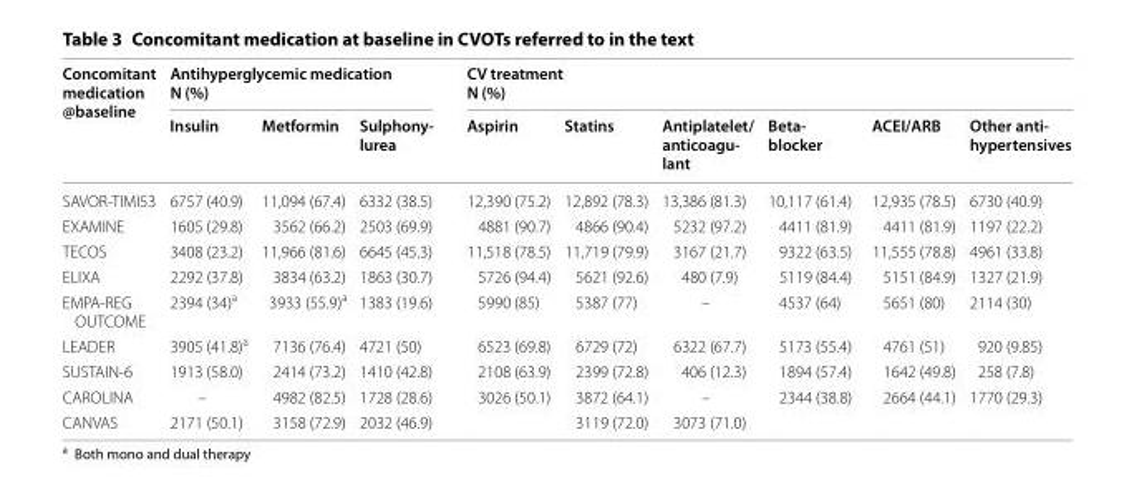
<table><thead><tr><td rowspan="2">Concomitant medication @baseline</td><td colspan="3">Antihyperglycemic medication N (%)</td><td colspan="6">CV treatment N (%)</td></tr><tr><td>Insulin</td><td>Metformin</td><td>Sulphony- lurea</td><td>Aspirin</td><td>Statins</td><td>Antiplatelet/ anticoagu- lant</td><td>Beta- blocker</td><td>ACEI/ARB</td><td>Other anti- hypertensives</td></tr></thead><tbody><tr><td>SAVOR-TIMI53</td><td>6757 (40.9)</td><td>11,094 (67.4)</td><td>6332 (38.5)</td><td>12,390 (75.2)</td><td>12,892 (78.3)</td><td>13,386 (81.3)</td><td>10,117 (61.4)</td><td>12,935 (78.5)</td><td>6730 (40.9)</td></tr><tr><td>EXAMINE</td><td>1605 (29.8)</td><td>3562 (66.2)</td><td>2503 (69.9)</td><td>4881 (90.7)</td><td>4866 (90.4)</td><td>5232 (97.2)</td><td>4411 (81.9)</td><td>4411 (81.9)</td><td>1197 (22.2)</td></tr><tr><td>TECOS</td><td>3408 (23.2)</td><td>11,966 (81.6)</td><td>6645 (45.3)</td><td>11,518 (78.5)</td><td>11,719 (79.9)</td><td>3167 (21.7)</td><td>9322 (63.5)</td><td>11,555 (78.8)</td><td>4961 (33.8)</td></tr><tr><td>ELIXA</td><td>2292 (37.8)</td><td>3834 (63.2)</td><td>1863 (30.7)</td><td>5726 (94.4)</td><td>5621 (92.6)</td><td>480 (7.9)</td><td>5119 (84.4)</td><td>5151 (84.9)</td><td>1327 (21.9)</td></tr><tr><td>EMPA-REG OUTCOME</td><td>2394 (34)<sup>a</sup></td><td>3933 (55.9)<sup>a</sup></td><td>1383 (19.6)</td><td>5990 (85)</td><td>5387 (77)</td><td>–</td><td>4537 (64)</td><td>5651 (80)</td><td>2114 (30)</td></tr><tr><td>LEADER</td><td>3905 (41.8)<sup>a</sup></td><td>7136 (76.4)</td><td>4721 (50)</td><td>6523 (69.8)</td><td>6729 (72)</td><td>6322 (67.7)</td><td>5173 (55.4)</td><td>4761 (51)</td><td>920 (9.85)</td></tr><tr><td>SUSTAIN-6</td><td>1913 (58.0)</td><td>2414 (73.2)</td><td>1410 (42.8)</td><td>2108 (63.9)</td><td>2399 (72.8)</td><td>406 (12.3)</td><td>1894 (57.4)</td><td>1642 (49.8)</td><td>258 (7.8)</td></tr><tr><td>CAROLINA</td><td>–</td><td>4982 (82.5)</td><td>1728 (28.6)</td><td>3026 (50.1)</td><td>3872 (64.1)</td><td>–</td><td>2344 (38.8)</td><td>2664 (44.1)</td><td>1770 (29.3)</td></tr><tr><td>CANVAS</td><td>2171 (50.1)</td><td>3158 (72.9)</td><td>2032 (46.9)</td><td></td><td>3119 (72.0)</td><td>3073 (71.0)</td><td></td><td></td><td></td></tr></tbody></table>